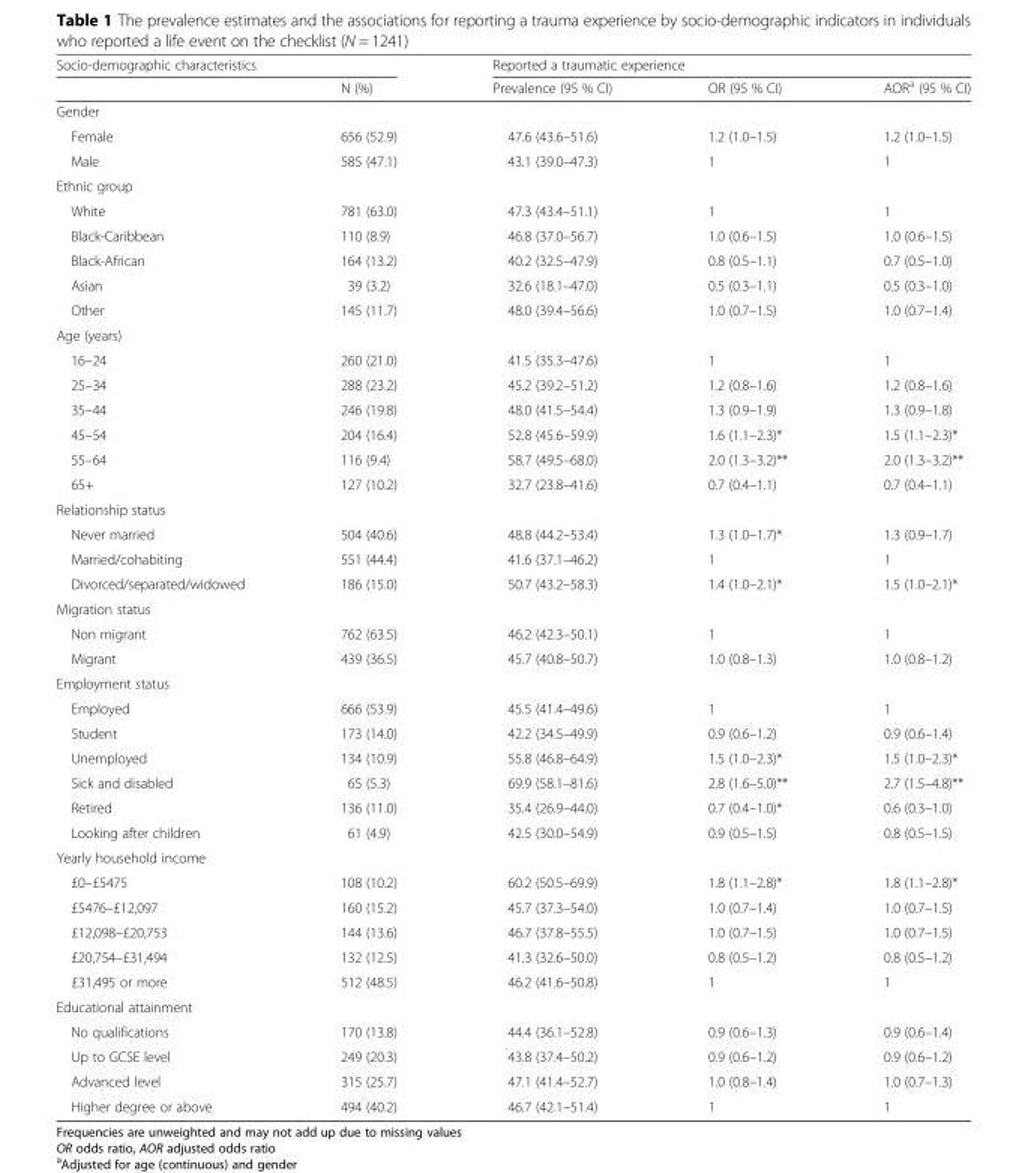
<table><thead><tr><td colspan="2">Socio-demographic characteristics</td><td colspan="3">Reported a traumatic experience</td></tr><tr><td></td><td>N (%)</td><td>Prevalence (95 % CI)</td><td>OR (95 % CI)</td><td>AOR<sup>a</sup> (95 % CI)</td></tr></thead><tbody><tr><td colspan="5">Gender</td></tr><tr><td>Female</td><td>656 (52.9)</td><td>47.6 (43.6–51.6)</td><td>1.2 (1.0–1.5)</td><td>1.2 (1.0–1.5)</td></tr><tr><td>Male</td><td>585 (47.1)</td><td>43.1 (39.0–47.3)</td><td>1</td><td>1</td></tr><tr><td colspan="5">Ethnic group</td></tr><tr><td>White</td><td>781 (63.0)</td><td>47.3 (43.4–51.1)</td><td>1</td><td>1</td></tr><tr><td>Black-Caribbean</td><td>110 (8.9)</td><td>46.8 (37.0–56.7)</td><td>1.0 (0.6–1.5)</td><td>1.0 (0.6–1.5)</td></tr><tr><td>Black-African</td><td>164 (13.2)</td><td>40.2 (32.5–47.9)</td><td>0.8 (0.5–1.1)</td><td>0.7 (0.5–1.0)</td></tr><tr><td>Asian</td><td>39 (3.2)</td><td>32.6 (18.1–47.0)</td><td>0.5 (0.3–1.1)</td><td>0.5 (0.3–1.0)</td></tr><tr><td>Other</td><td>145 (11.7)</td><td>48.0 (39.4–56.6)</td><td>1.0 (0.7–1.5)</td><td>1.0 (0.7–1.4)</td></tr><tr><td colspan="5">Age (years)</td></tr><tr><td>16–24</td><td>260 (21.0)</td><td>41.5 (35.3–47.6)</td><td>1</td><td>1</td></tr><tr><td>25–34</td><td>288 (23.2)</td><td>45.2 (39.2–51.2)</td><td>1.2 (0.8–1.6)</td><td>1.2 (0.8–1.6)</td></tr><tr><td>35–44</td><td>246 (19.8)</td><td>48.0 (41.5–54.4)</td><td>1.3 (0.9–1.9)</td><td>1.3 (0.9–1.8)</td></tr><tr><td>45–54</td><td>204 (16.4)</td><td>52.8 (45.6–59.9)</td><td>1.6 (1.1–2.3)*</td><td>1.5 (1.1–2.3)*</td></tr><tr><td>55–64</td><td>116 (9.4)</td><td>58.7 (49.5–68.0)</td><td>2.0 (1.3–3.2)**</td><td>2.0 (1.3–3.2)**</td></tr><tr><td>65+</td><td>127 (10.2)</td><td>32.7 (23.8–41.6)</td><td>0.7 (0.4–1.1)</td><td>0.7 (0.4–1.1)</td></tr><tr><td colspan="5">Relationship status</td></tr><tr><td>Never married</td><td>504 (40.6)</td><td>48.8 (44.2–53.4)</td><td>1.3 (1.0–1.7)*</td><td>1.3 (0.9–1.7)</td></tr><tr><td>Married/cohabiting</td><td>551 (44.4)</td><td>41.6 (37.1–46.2)</td><td>1</td><td>1</td></tr><tr><td>Divorced/separated/widowed</td><td>186 (15.0)</td><td>50.7 (43.2–58.3)</td><td>1.4 (1.0–2.1)*</td><td>1.5 (1.0–2.1)*</td></tr><tr><td colspan="5">Migration status</td></tr><tr><td>Non migrant</td><td>762 (63.5)</td><td>46.2 (42.3–50.1)</td><td>1</td><td>1</td></tr><tr><td>Migrant</td><td>439 (36.5)</td><td>45.7 (40.8–50.7)</td><td>1.0 (0.8–1.3)</td><td>1.0 (0.8–1.2)</td></tr><tr><td colspan="5">Employment status</td></tr><tr><td>Employed</td><td>666 (53.9)</td><td>45.5 (41.4–49.6)</td><td>1</td><td>1</td></tr><tr><td>Student</td><td>173 (14.0)</td><td>42.2 (34.5–49.9)</td><td>0.9 (0.6–1.2)</td><td>0.9 (0.6–1.4)</td></tr><tr><td>Unemployed</td><td>134 (10.9)</td><td>55.8 (46.8–64.9)</td><td>1.5 (1.0–2.3)*</td><td>1.5 (1.0–2.3)*</td></tr><tr><td>Sick and disabled</td><td>65 (5.3)</td><td>69.9 (58.1–81.6)</td><td>2.8 (1.6–5.0)**</td><td>2.7 (1.5–4.8)**</td></tr><tr><td>Retired</td><td>136 (11.0)</td><td>35.4 (26.9–44.0)</td><td>0.7 (0.4–1.0)*</td><td>0.6 (0.3–1.0)</td></tr><tr><td>Looking after children</td><td>61 (4.9)</td><td>42.5 (30.0–54.9)</td><td>0.9 (0.5–1.5)</td><td>0.8 (0.5–1.5)</td></tr><tr><td colspan="5">Yearly household income</td></tr><tr><td>£0–£5475</td><td>108 (10.2)</td><td>60.2 (50.5–69.9)</td><td>1.8 (1.1–2.8)*</td><td>1.8 (1.1–2.8)*</td></tr><tr><td>£5476–£12,097</td><td>160 (15.2)</td><td>45.7 (37.3–54.0)</td><td>1.0 (0.7–1.4)</td><td>1.0 (0.7–1.5)</td></tr><tr><td>£12,098–£20,753</td><td>144 (13.6)</td><td>46.7 (37.8–55.5)</td><td>1.0 (0.7–1.5)</td><td>1.0 (0.7–1.5)</td></tr><tr><td>£20,754–£31,494</td><td>132 (12.5)</td><td>41.3 (32.6–50.0)</td><td>0.8 (0.5–1.2)</td><td>0.8 (0.5–1.2)</td></tr><tr><td>£31,495 or more</td><td>512 (48.5)</td><td>46.2 (41.6–50.8)</td><td>1</td><td>1</td></tr><tr><td colspan="5">Educational attainment</td></tr><tr><td>No qualifications</td><td>170 (13.8)</td><td>44.4 (36.1–52.8)</td><td>0.9 (0.6–1.3)</td><td>0.9 (0.6–1.4)</td></tr><tr><td>Up to GCSE level</td><td>249 (20.3)</td><td>43.8 (37.4–50.2)</td><td>0.9 (0.6–1.2)</td><td>0.9 (0.6–1.2)</td></tr><tr><td>Advanced level</td><td>315 (25.7)</td><td>47.1 (41.4–52.7)</td><td>1.0 (0.8–1.4)</td><td>1.0 (0.7–1.3)</td></tr><tr><td>Higher degree or above</td><td>494 (40.2)</td><td>46.7 (42.1–51.4)</td><td>1</td><td>1</td></tr></tbody></table>